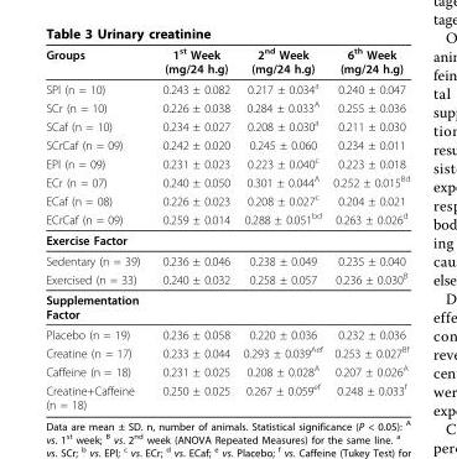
<table><thead><tr><td>Groups</td><td>1<sup>st</sup> Week (mg/24 h.g)</td><td>2<sup>nd</sup> Week (mg/24 h.g)</td><td>6<sup>th</sup> Week (mg/24 h.g)</td></tr></thead><tbody><tr><td>SPl (n = 10)</td><td>0.243 ± 0.082</td><td>0.217 ± 0.034<sup>a</sup></td><td>0.240 ± 0.047</td></tr><tr><td>SCr (n = 10)</td><td>0.226 ± 0.038</td><td>0.284 ± 0.033<sup>A</sup></td><td>0.255 ± 0.036</td></tr><tr><td>SCaf (n = 10)</td><td>0.234 ± 0.027</td><td>0.208 ± 0.030<sup>a</sup></td><td>0.211 ± 0.030</td></tr><tr><td>SCrCaf (n = 09)</td><td>0.242 ± 0.020</td><td>0.245 ± 0.060</td><td>0.234 ± 0.011</td></tr><tr><td>EPl (n = 09)</td><td>0.231 ± 0.023</td><td>0.223 ± 0.040<sup>c</sup></td><td>0.223 ± 0.018</td></tr><tr><td>ECr (n = 07)</td><td>0.240 ± 0.050</td><td>0.301 ± 0.044<sup>A</sup></td><td>0.252 ± 0.015<sup>Bd</sup></td></tr><tr><td>ECaf (n = 08)</td><td>0.226 ± 0.023</td><td>0.208 ± 0.027<sup>c</sup></td><td>0.204 ± 0.021</td></tr><tr><td>ECrCaf (n = 09)</td><td>0.259 ± 0.014</td><td>0.288 ± 0.051<sup>bd</sup></td><td>0.263 ± 0.026<sup>d</sup></td></tr><tr><td colspan="4">Exercise Factor</td></tr><tr><td>Sedentary (n = 39)</td><td>0.236 ± 0.046</td><td>0.238 ± 0.049</td><td>0.235 ± 0.040</td></tr><tr><td>Exercised (n = 33)</td><td>0.240 ± 0.032</td><td>0.258 ± 0.057</td><td>0.236 ± 0.030<sup>B</sup></td></tr><tr><td colspan="4">Supplementation Factor</td></tr><tr><td>Placebo (n = 19)</td><td>0.236 ± 0.058</td><td>0.220 ± 0.036</td><td>0.232 ± 0.036</td></tr><tr><td>Creatine (n = 17)</td><td>0.233 ± 0.044</td><td>0.293 ± 0.039<sup>Aef</sup></td><td>0.253 ± 0.027<sup>Bf</sup></td></tr><tr><td>Caffeine (n = 18)</td><td>0.231 ± 0.025</td><td>0.208 ± 0.028<sup>A</sup></td><td>0.207 ± 0.026<sup>A</sup></td></tr><tr><td>Creatine+Caffeine (n = 18)</td><td>0.250 ± 0.025</td><td>0.267 ± 0.059<sup>ef</sup></td><td>0.248 ± 0.033<sup>f</sup></td></tr></tbody></table>